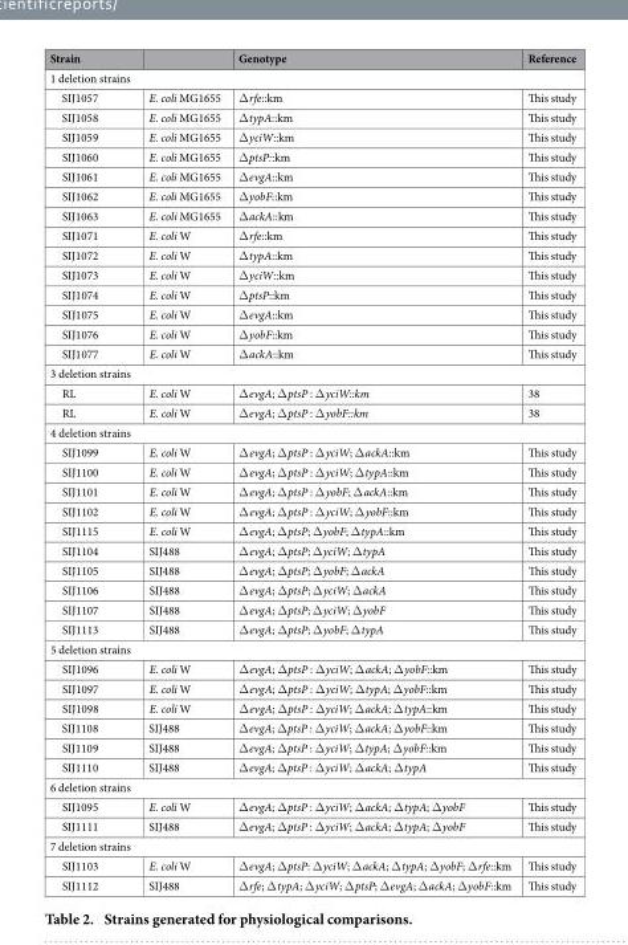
<table><thead><tr><td>Strain</td><td></td><td>Genotype</td><td>Reference</td></tr></thead><tbody><tr><td colspan="4">1 deletion strains</td></tr><tr><td>SIJ1057</td><td>E. coli MG1655</td><td>Δ rfe::km</td><td>This study</td></tr><tr><td>SIJ1058</td><td>E. coli MG1655</td><td>Δ typA::km</td><td>This study</td></tr><tr><td>SIJ1059</td><td>E. coli MG1655</td><td>Δ yciW::km</td><td>This study</td></tr><tr><td>SIJ1060</td><td>E. coli MG1655</td><td>Δ ptsP::km</td><td>This study</td></tr><tr><td>SIJ1061</td><td>E. coli MG1655</td><td>Δ evgA::km</td><td>This study</td></tr><tr><td>SIJ1062</td><td>E. coli MG1655</td><td>Δ yobF::km</td><td>This study</td></tr><tr><td>SIJ1063</td><td>E. coli MG1655</td><td>Δ ackA::km</td><td>This study</td></tr><tr><td>SIJ1071</td><td>E. coli W</td><td>Δ rfe::km</td><td>This study</td></tr><tr><td>SIJ1072</td><td>E. coli W</td><td>Δ typA::km</td><td>This study</td></tr><tr><td>SIJ1073</td><td>E. coli W</td><td>Δ yciW::km</td><td>This study</td></tr><tr><td>SIJ1074</td><td>E. coli W</td><td>Δ ptsP::km</td><td>This study</td></tr><tr><td>SIJ1075</td><td>E. coli W</td><td>Δ evgA::km</td><td>This study</td></tr><tr><td>SIJ1076</td><td>E. coli W</td><td>Δ yobF::km</td><td>This study</td></tr><tr><td>SIJ1077</td><td>E. coli W</td><td>Δ ackA::km</td><td>This study</td></tr><tr><td colspan="4">3 deletion strains</td></tr><tr><td>RL</td><td>E. coli W</td><td>Δ evgA; Δ ptsP : Δ yciW::km</td><td>38</td></tr><tr><td>RL</td><td>E. coli W</td><td>Δ evgA; Δ ptsP : Δ yobF::km</td><td>38</td></tr><tr><td colspan="4">4 deletion strains</td></tr><tr><td>SIJ1099</td><td>E. coli W</td><td>Δ evgA; Δ ptsP : Δ yciW; Δ ackA::km</td><td>This study</td></tr><tr><td>SIJ1100</td><td>E. coli W</td><td>Δ evgA; Δ ptsP : Δ yciW; Δ typA::km</td><td>This study</td></tr><tr><td>SIJ1101</td><td>E. coli W</td><td>Δ evgA; Δ ptsP : Δ yobF; Δ ackA::km</td><td>This study</td></tr><tr><td>SIJ1102</td><td>E. coli W</td><td>Δ evgA; Δ ptsP : Δ yciW; Δ yobF::km</td><td>This study</td></tr><tr><td>SIJ1115</td><td>E. coli W</td><td>Δ evgA; Δ ptsP; Δ yobF; Δ typA::km</td><td>This study</td></tr><tr><td>SIJ1104</td><td>SIJ488</td><td>Δ evgA; Δ ptsP; Δ yciW; Δ typA</td><td>This study</td></tr><tr><td>SIJ1105</td><td>SIJ488</td><td>Δ evgA; Δ ptsP; Δ yobF; Δ ackA</td><td>This study</td></tr><tr><td>SIJ1106</td><td>SIJ488</td><td>Δ evgA; Δ ptsP; Δ yciW; Δ ackA</td><td>This study</td></tr><tr><td>SIJ1107</td><td>SIJ488</td><td>Δ evgA; Δ ptsP; Δ yciW; Δ yobF</td><td>This study</td></tr><tr><td>SIJ1113</td><td>SIJ488</td><td>Δ evgA; Δ ptsP; Δ yobF; Δ typA</td><td>This study</td></tr><tr><td colspan="4">5 deletion strains</td></tr><tr><td>SIJ1096</td><td>E. coli W</td><td>Δ evgA; Δ ptsP : Δ yciW; Δ ackA; Δ yobF::km</td><td>This study</td></tr><tr><td>SIJ1097</td><td>E. coli W</td><td>Δ evgA; Δ ptsP : Δ yciW; Δ typA; Δ yobF::km</td><td>This study</td></tr><tr><td>SIJ1098</td><td>E. coli W</td><td>Δ evgA; Δ ptsP : Δ yciW; Δ ackA; Δ typA::km</td><td>This study</td></tr><tr><td>SIJ1108</td><td>SIJ488</td><td>Δ evgA; Δ ptsP : Δ yciW; Δ ackA; Δ yobF::km</td><td>This study</td></tr><tr><td>SIJ1109</td><td>SIJ488</td><td>Δ evgA; Δ ptsP : Δ yciW; Δ typA; Δ yobF::km</td><td>This study</td></tr><tr><td>SIJ1110</td><td>SIJ488</td><td>Δ evgA; Δ ptsP : Δ yciW; Δ ackA; Δ typA</td><td>This study</td></tr><tr><td colspan="4">6 deletion strains</td></tr><tr><td>SIJ1095</td><td>E. coli W</td><td>Δ evgA; Δ ptsP : Δ yciW; Δ ackA; Δ typA; Δ yobF</td><td>This study</td></tr><tr><td>SIJ1111</td><td>SIJ488</td><td>Δ evgA; Δ ptsP : Δ yciW; Δ ackA; Δ typA; Δ yobF</td><td>This study</td></tr><tr><td colspan="4">7 deletion strains</td></tr><tr><td>SIJ1103</td><td>E. coli W</td><td>Δ evgA; Δ ptsP: Δ yciW; Δ ackA; Δ typA; Δ yobF; Δ rfe::km</td><td>This study</td></tr><tr><td>SIJ1112</td><td>SIJ488</td><td>Δ rfe; Δ typA; Δ yciW; Δ ptsP; Δ evgA; Δ ackA; Δ yobF::km</td><td>This study</td></tr></tbody></table>